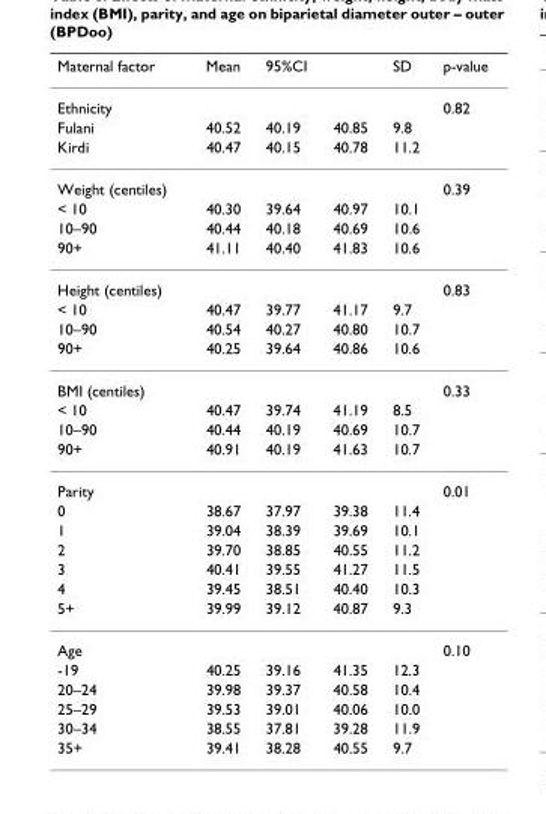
<table><thead><tr><td>Maternal factor</td><td>Mean</td><td>95%CI</td><td></td><td>SD</td><td>p-value</td></tr></thead><tbody><tr><td>Ethnicity</td><td></td><td></td><td></td><td></td><td>0.82</td></tr><tr><td>Fulani</td><td>40.52</td><td>40.19</td><td>40.85</td><td>9.8</td><td></td></tr><tr><td>Kirdi</td><td>40.47</td><td>40.15</td><td>40.78</td><td>11.2</td><td></td></tr><tr><td>Weight (centiles)</td><td></td><td></td><td></td><td></td><td>0.39</td></tr><tr><td>&lt; 10</td><td>40.30</td><td>39.64</td><td>40.97</td><td>10.1</td><td></td></tr><tr><td>10–90</td><td>40.44</td><td>40.18</td><td>40.69</td><td>10.6</td><td></td></tr><tr><td>90+</td><td>41.11</td><td>40.40</td><td>41.83</td><td>10.6</td><td></td></tr><tr><td>Height (centiles)</td><td></td><td></td><td></td><td></td><td>0.83</td></tr><tr><td>&lt; 10</td><td>40.47</td><td>39.77</td><td>41.17</td><td>9.7</td><td></td></tr><tr><td>10–90</td><td>40.54</td><td>40.27</td><td>40.80</td><td>10.7</td><td></td></tr><tr><td>90+</td><td>40.25</td><td>39.64</td><td>40.86</td><td>10.6</td><td></td></tr><tr><td>BMI (centiles)</td><td></td><td></td><td></td><td></td><td>0.33</td></tr><tr><td>&lt; 10</td><td>40.47</td><td>39.74</td><td>41.19</td><td>8.5</td><td></td></tr><tr><td>10–90</td><td>40.44</td><td>40.19</td><td>40.69</td><td>10.7</td><td></td></tr><tr><td>90+</td><td>40.91</td><td>40.19</td><td>41.63</td><td>10.7</td><td></td></tr><tr><td>Parity</td><td></td><td></td><td></td><td></td><td>0.01</td></tr><tr><td>0</td><td>38.67</td><td>37.97</td><td>39.38</td><td>11.4</td><td></td></tr><tr><td>1</td><td>39.04</td><td>38.39</td><td>39.69</td><td>10.1</td><td></td></tr><tr><td>2</td><td>39.70</td><td>38.85</td><td>40.55</td><td>11.2</td><td></td></tr><tr><td>3</td><td>40.41</td><td>39.55</td><td>41.27</td><td>11.5</td><td></td></tr><tr><td>4</td><td>39.45</td><td>38.51</td><td>40.40</td><td>10.3</td><td></td></tr><tr><td>5+</td><td>39.99</td><td>39.12</td><td>40.87</td><td>9.3</td><td></td></tr><tr><td>Age</td><td></td><td></td><td></td><td></td><td>0.10</td></tr><tr><td>-19</td><td>40.25</td><td>39.16</td><td>41.35</td><td>12.3</td><td></td></tr><tr><td>20–24</td><td>39.98</td><td>39.37</td><td>40.58</td><td>10.4</td><td></td></tr><tr><td>25–29</td><td>39.53</td><td>39.01</td><td>40.06</td><td>10.0</td><td></td></tr><tr><td>30–34</td><td>38.55</td><td>37.81</td><td>39.28</td><td>11.9</td><td></td></tr><tr><td>35+</td><td>39.41</td><td>38.28</td><td>40.55</td><td>9.7</td><td></td></tr></tbody></table>